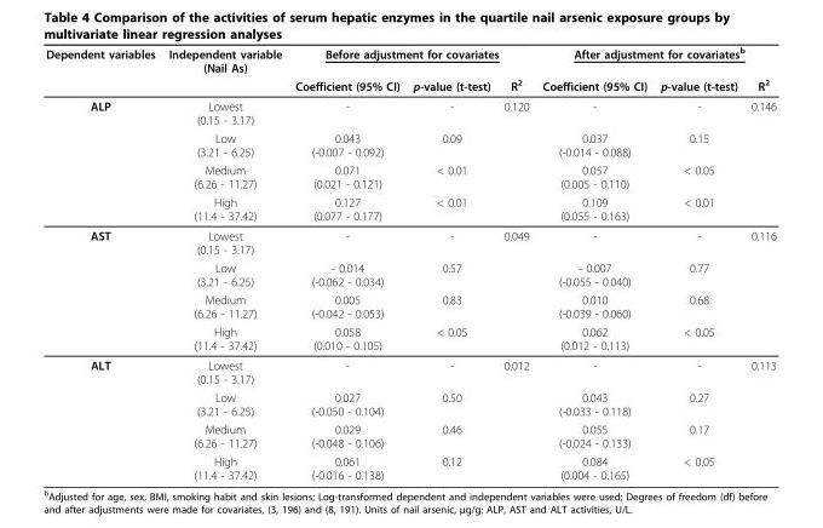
<table><thead><tr><td rowspan="2">Dependent variables</td><td rowspan="2">Independent variable (Nail As)</td><td colspan="3">Before adjustment for covariates</td><td colspan="3">After adjustment for covariates<sup>b</sup></td></tr><tr><td>Coefficient (95% CI)</td><td>p-value (t-test)</td><td>R<sup>2</sup></td><td>Coefficient (95% CI)</td><td>p-value (t-test)</td><td>R<sup>2</sup></td></tr></thead><tbody><tr><td rowspan="4">ALP</td><td>Lowest (0.15 - 3.17)</td><td>-</td><td>-</td><td>0.120</td><td>-</td><td>-</td><td>0.146</td></tr><tr><td>Low (3.21 - 6.25)</td><td>0.043 (-0.007 - 0.092)</td><td>0.09</td><td></td><td>0.037 (-0.014 - 0.088)</td><td>0.15</td><td></td></tr><tr><td>Medium (6.26 - 11.27)</td><td>0.071 (0.021 - 0.121)</td><td>&lt; 0.01</td><td></td><td>0.057 (0.005 - 0.110)</td><td>&lt; 0.05</td><td></td></tr><tr><td>High (11.4 - 37.42)</td><td>0.127 (0.077 - 0.177)</td><td>&lt; 0.01</td><td></td><td>0.109 (0.055 - 0.163)</td><td>&lt; 0.01</td><td></td></tr><tr><td rowspan="4">AST</td><td>Lowest (0.15 - 3.17)</td><td>-</td><td>-</td><td>0.049</td><td>-</td><td>-</td><td>0.116</td></tr><tr><td>Low (3.21 - 6.25)</td><td>- 0.014 (-0.062 - 0.034)</td><td>0.57</td><td></td><td>- 0.007 (-0.055 - 0.040)</td><td>0.77</td><td></td></tr><tr><td>Medium (6.26 - 11.27)</td><td>0.005 (-0.042 - 0.053)</td><td>0.83</td><td></td><td>0.010 (-0.039 - 0.060)</td><td>0.68</td><td></td></tr><tr><td>High (11.4 - 37.42)</td><td>0.058 (0.010 - 0.105)</td><td>&lt; 0.05</td><td></td><td>0.062 (0.012 - 0.113)</td><td>&lt; 0.05</td><td></td></tr><tr><td rowspan="4">ALT</td><td>Lowest (0.15 - 3.17)</td><td>-</td><td>-</td><td>0.012</td><td>-</td><td>-</td><td>0.113</td></tr><tr><td>Low (3.21 - 6.25)</td><td>0.027 (-0.050 - 0.104)</td><td>0.50</td><td></td><td>0.043 (-0.033 - 0.118)</td><td>0.27</td><td></td></tr><tr><td>Medium (6.26 - 11.27)</td><td>0.029 (-0.048 - 0.106)</td><td>0.46</td><td></td><td>0.055 (-0.024 - 0.133)</td><td>0.17</td><td></td></tr><tr><td>High (11.4 - 37.42)</td><td>0.061 (-0.016 - 0.138)</td><td>0.12</td><td></td><td>0.084 (0.004 - 0.165)</td><td>&lt; 0.05</td><td></td></tr></tbody></table>